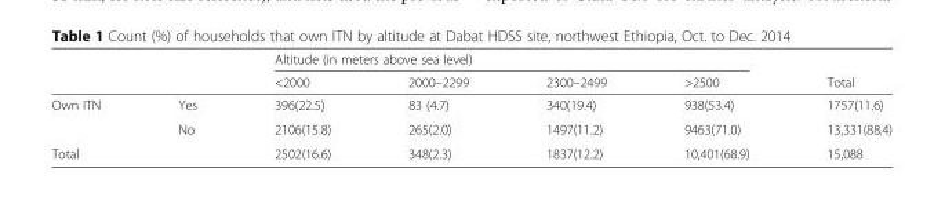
<table><thead><tr><td rowspan="2"></td><td rowspan="2"></td><td colspan="4">Altitude (in meters above sea level)</td><td rowspan="2">Total</td></tr><tr><td>&lt;2000</td><td>2000–2299</td><td>2300–2499</td><td>&gt;2500</td></tr></thead><tbody><tr><td rowspan="2">Own ITN</td><td>Yes</td><td>396(22.5)</td><td>83 (4.7)</td><td>340(19.4)</td><td>938(53.4)</td><td>1757(11.6)</td></tr><tr><td>No</td><td>2106(15.8)</td><td>265(2.0)</td><td>1497(11.2)</td><td>9463(71.0)</td><td>13,331(88.4)</td></tr><tr><td colspan="2">Total</td><td>2502(16.6)</td><td>348(2.3)</td><td>1837(12.2)</td><td>10,401(68.9)</td><td>15,088</td></tr></tbody></table>